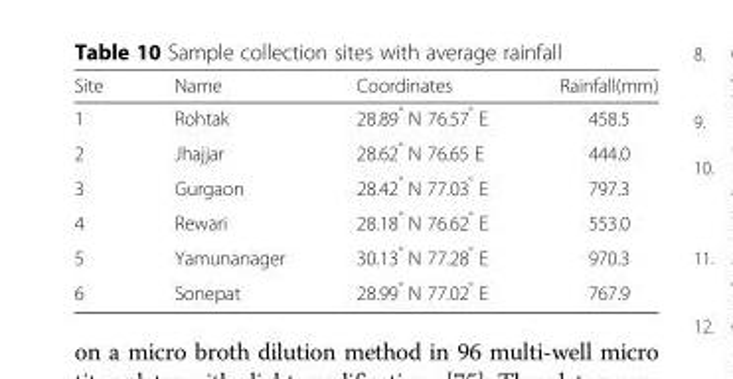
<table><thead><tr><td>Site</td><td>Name</td><td>Coordinates</td><td>Rainfall(mm)</td></tr></thead><tbody><tr><td>1</td><td>Rohtak</td><td>28.89<sup>°</sup> N 76.57<sup>°</sup> E</td><td>458.5</td></tr><tr><td>2</td><td>Jhajjar</td><td>28.62<sup>°</sup> N 76.65 E</td><td>444.0</td></tr><tr><td>3</td><td>Gurgaon</td><td>28.42<sup>°</sup> N 77.03<sup>°</sup> E</td><td>797.3</td></tr><tr><td>4</td><td>Rewari</td><td>28.18<sup>°</sup> N 76.62<sup>°</sup> E</td><td>553.0</td></tr><tr><td>5</td><td>Yamunanager</td><td>30.13<sup>°</sup> N 77.28<sup>°</sup> E</td><td>970.3</td></tr><tr><td>6</td><td>Sonepat</td><td>28.99<sup>°</sup> N 77.02<sup>°</sup> E</td><td>767.9</td></tr></tbody></table>